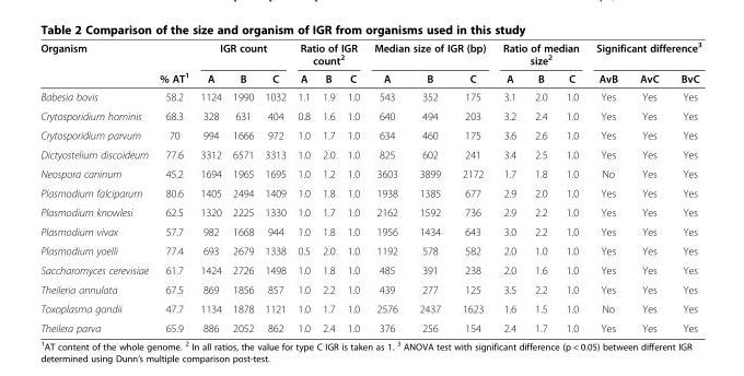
<table><thead><tr><td rowspan="2">Organism</td><td rowspan="2">% AT<sup>1</sup></td><td colspan="3">IGR count</td><td colspan="3">Ratio of IGR count<sup>2</sup></td><td colspan="3">Median size of IGR (bp)</td><td colspan="3">Ratio of median size<sup>2</sup></td><td colspan="3">Significant difference<sup>3</sup></td></tr><tr><td>A</td><td>B</td><td>C</td><td>A</td><td>B</td><td>C</td><td>A</td><td>B</td><td>C</td><td>A</td><td>B</td><td>C</td><td>AvB</td><td>AvC</td><td>BvC</td></tr></thead><tbody><tr><td>Babesia bovis</td><td>58.2</td><td>1124</td><td>1990</td><td>1032</td><td>1.1</td><td>1.9</td><td>1.0</td><td>543</td><td>352</td><td>175</td><td>3.1</td><td>2.0</td><td>1.0</td><td>Yes</td><td>Yes</td><td>Yes</td></tr><tr><td>Crytosporidium hominis</td><td>68.3</td><td>328</td><td>631</td><td>404</td><td>0.8</td><td>1.6</td><td>1.0</td><td>640</td><td>494</td><td>203</td><td>3.2</td><td>2.4</td><td>1.0</td><td>Yes</td><td>Yes</td><td>Yes</td></tr><tr><td>Crytosporidium parvum</td><td>70</td><td>994</td><td>1666</td><td>972</td><td>1.0</td><td>1.7</td><td>1.0</td><td>634</td><td>460</td><td>175</td><td>3.6</td><td>2.6</td><td>1.0</td><td>Yes</td><td>Yes</td><td>Yes</td></tr><tr><td>Dictyostelium discoideum</td><td>77.6</td><td>3312</td><td>6571</td><td>3313</td><td>1.0</td><td>2.0</td><td>1.0</td><td>825</td><td>602</td><td>241</td><td>3.4</td><td>2.5</td><td>1.0</td><td>Yes</td><td>Yes</td><td>Yes</td></tr><tr><td>Neospora caninum</td><td>45.2</td><td>1694</td><td>1965</td><td>1695</td><td>1.0</td><td>1.2</td><td>1.0</td><td>3603</td><td>3899</td><td>2172</td><td>1.7</td><td>1.8</td><td>1.0</td><td>No</td><td>Yes</td><td>Yes</td></tr><tr><td>Plasmodium falciparum</td><td>80.6</td><td>1405</td><td>2494</td><td>1409</td><td>1.0</td><td>1.8</td><td>1.0</td><td>1938</td><td>1385</td><td>677</td><td>2.9</td><td>2.0</td><td>1.0</td><td>Yes</td><td>Yes</td><td>Yes</td></tr><tr><td>Plasmodium knowlesi</td><td>62.5</td><td>1320</td><td>2225</td><td>1330</td><td>1.0</td><td>1.7</td><td>1.0</td><td>2162</td><td>1592</td><td>736</td><td>2.9</td><td>2.2</td><td>1.0</td><td>Yes</td><td>Yes</td><td>Yes</td></tr><tr><td>Plasmodium vivax</td><td>57.7</td><td>982</td><td>1668</td><td>944</td><td>1.0</td><td>1.8</td><td>1.0</td><td>1956</td><td>1434</td><td>643</td><td>3.0</td><td>2.2</td><td>1.0</td><td>Yes</td><td>Yes</td><td>Yes</td></tr><tr><td>Plasmodium yoelli</td><td>77.4</td><td>693</td><td>2679</td><td>1338</td><td>0.5</td><td>2.0</td><td>1.0</td><td>1192</td><td>578</td><td>582</td><td>2.0</td><td>1.0</td><td>1.0</td><td>Yes</td><td>Yes</td><td>Yes</td></tr><tr><td>Saccharomyces cerevisiae</td><td>61.7</td><td>1424</td><td>2726</td><td>1498</td><td>1.0</td><td>1.8</td><td>1.0</td><td>485</td><td>391</td><td>238</td><td>2.0</td><td>1.6</td><td>1.0</td><td>Yes</td><td>Yes</td><td>Yes</td></tr><tr><td>Theileria annulata</td><td>67.5</td><td>869</td><td>1856</td><td>857</td><td>1.0</td><td>2.2</td><td>1.0</td><td>439</td><td>277</td><td>125</td><td>3.5</td><td>2.2</td><td>1.0</td><td>Yes</td><td>Yes</td><td>Yes</td></tr><tr><td>Toxoplasma gondii</td><td>47.7</td><td>1134</td><td>1878</td><td>1121</td><td>1.0</td><td>1.7</td><td>1.0</td><td>2576</td><td>2437</td><td>1623</td><td>1.6</td><td>1.5</td><td>1.0</td><td>No</td><td>Yes</td><td>Yes</td></tr><tr><td>Theilera parva</td><td>65.9</td><td>886</td><td>2052</td><td>862</td><td>1.0</td><td>2.4</td><td>1.0</td><td>376</td><td>256</td><td>154</td><td>2.4</td><td>1.7</td><td>1.0</td><td>Yes</td><td>Yes</td><td>Yes</td></tr></tbody></table>